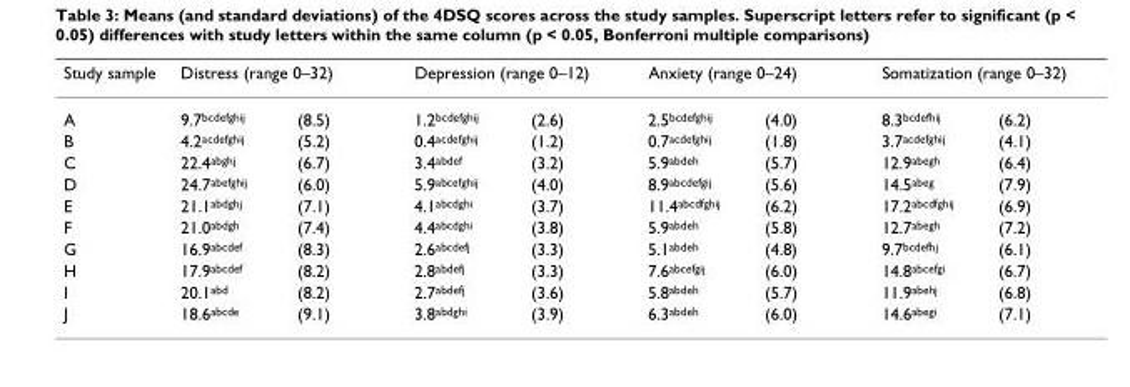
<table><thead><tr><td rowspan="2">Study sample A</td><td colspan="2">Distress (range 0–32)</td><td colspan="2">Depression (range 0–12)</td><td colspan="2">Anxiety (range 0–24)</td><td colspan="2">Somatization (range 0–32)</td></tr><tr><td>9.7<sup>bcdefghij</sup></td><td>(8.5)</td><td>1.2<sup>bcdefghij</sup></td><td>(2.6)</td><td>2.5<sup>bcdefghij</sup></td><td>(4.0)</td><td>8.3<sup>bcdefhij</sup></td><td>(6.2)</td></tr></thead><tbody><tr><td>B</td><td>4.2<sup>acdefghij</sup></td><td>(5.2)</td><td>0.4<sup>acdefghij</sup></td><td>(1.2)</td><td>0.7<sup>acdefghij</sup></td><td>(1.8)</td><td>3.7<sup>acdefghij</sup></td><td>(4.1)</td></tr><tr><td>C</td><td>22.4<sup>abghj</sup></td><td>(6.7)</td><td>3.4<sup>abdef</sup></td><td>(3.2)</td><td>5.9<sup>abdeh</sup></td><td>(5.7)</td><td>12.9<sup>abegh</sup></td><td>(6.4)</td></tr><tr><td>D</td><td>24.7<sup>abefghij</sup></td><td>(6.0)</td><td>5.9<sup>abcefghij</sup></td><td>(4.0)</td><td>8.9<sup>abcdefgij</sup></td><td>(5.6)</td><td>14.5<sup>abeg</sup></td><td>(7.9)</td></tr><tr><td>E</td><td>21.1<sup>abdghj</sup></td><td>(7.1)</td><td>4.1<sup>abcdghi</sup></td><td>(3.7)</td><td>11.4<sup>abcdfghij</sup></td><td>(6.2)</td><td>17.2<sup>abcdfghij</sup></td><td>(6.9)</td></tr><tr><td>F</td><td>21.0<sup>abdgh</sup></td><td>(7.4)</td><td>4.4<sup>abcdghi</sup></td><td>(3.8)</td><td>5.9<sup>abdeh</sup></td><td>(5.8)</td><td>12.7<sup>abegh</sup></td><td>(7.2)</td></tr><tr><td>G</td><td>16.9<sup>abcdef</sup></td><td>(8.3)</td><td>2.6<sup>abcdefj</sup></td><td>(3.3)</td><td>5.1<sup>abdeh</sup></td><td>(4.8)</td><td>9.7<sup>bcdefhj</sup></td><td>(6.1)</td></tr><tr><td>H</td><td>17.9<sup>abcdef</sup></td><td>(8.2)</td><td>2.8<sup>abdefj</sup></td><td>(3.3)</td><td>7.6<sup>abcefgij</sup></td><td>(6.0)</td><td>14.8<sup>abcefgi</sup></td><td>(6.7)</td></tr><tr><td>I</td><td>20.1<sup>abd</sup></td><td>(8.2)</td><td>2.7<sup>abdefj</sup></td><td>(3.6)</td><td>5.8<sup>abdeh</sup></td><td>(5.7)</td><td>11.9<sup>abehj</sup></td><td>(6.8)</td></tr><tr><td>J</td><td>18.6<sup>abcde</sup></td><td>(9.1)</td><td>3.8<sup>abdghi</sup></td><td>(3.9)</td><td>6.3<sup>abdeh</sup></td><td>(6.0)</td><td>14.6<sup>abegi</sup></td><td>(7.1)</td></tr></tbody></table>